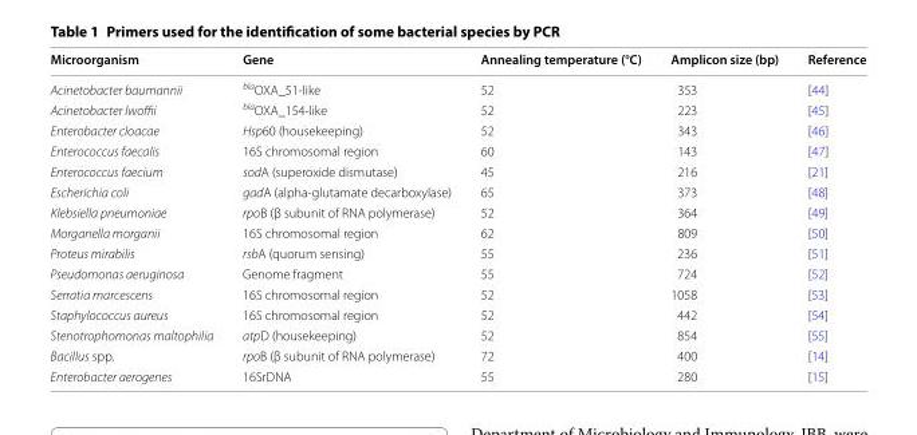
<table><thead><tr><td>Microorganism</td><td>Gene</td><td>Annealing temperature (°C)</td><td>Amplicon size (bp)</td><td>Reference</td></tr></thead><tbody><tr><td>Acinetobacter baumannii</td><td><sup>bla</sup>OXA_51-like</td><td>52</td><td>353</td><td>[44]</td></tr><tr><td>Acinetobacter lwoffii</td><td><sup>bla</sup>OXA_154-like</td><td>52</td><td>223</td><td>[45]</td></tr><tr><td>Enterobacter cloacae</td><td>Hsp60 (housekeeping)</td><td>52</td><td>343</td><td>[46]</td></tr><tr><td>Enterococcus faecalis</td><td>16S chromosomal region</td><td>60</td><td>143</td><td>[47]</td></tr><tr><td>Enterococcus faecium</td><td>sodA (superoxide dismutase)</td><td>45</td><td>216</td><td>[21]</td></tr><tr><td>Escherichia coli</td><td>gadA (alpha-glutamate decarboxylase)</td><td>65</td><td>373</td><td>[48]</td></tr><tr><td>Klebsiella pneumoniae</td><td>rpoB (β subunit of RNA polymerase)</td><td>52</td><td>364</td><td>[49]</td></tr><tr><td>Morganella morganii</td><td>16S chromosomal region</td><td>62</td><td>809</td><td>[50]</td></tr><tr><td>Proteus mirabilis</td><td>rsbA (quorum sensing)</td><td>55</td><td>236</td><td>[51]</td></tr><tr><td>Pseudomonas aeruginosa</td><td>Genome fragment</td><td>55</td><td>724</td><td>[52]</td></tr><tr><td>Serratia marcescens</td><td>16S chromosomal region</td><td>52</td><td>1058</td><td>[53]</td></tr><tr><td>Staphylococcus aureus</td><td>16S chromosomal region</td><td>52</td><td>442</td><td>[54]</td></tr><tr><td>Stenotrophomonas maltophilia</td><td>atpD (housekeeping)</td><td>52</td><td>854</td><td>[55]</td></tr><tr><td>Bacillus spp.</td><td>rpoB (β subunit of RNA polymerase)</td><td>72</td><td>400</td><td>[14]</td></tr><tr><td>Enterobacter aerogenes</td><td>16SrDNA</td><td>55</td><td>280</td><td>[15]</td></tr></tbody></table>